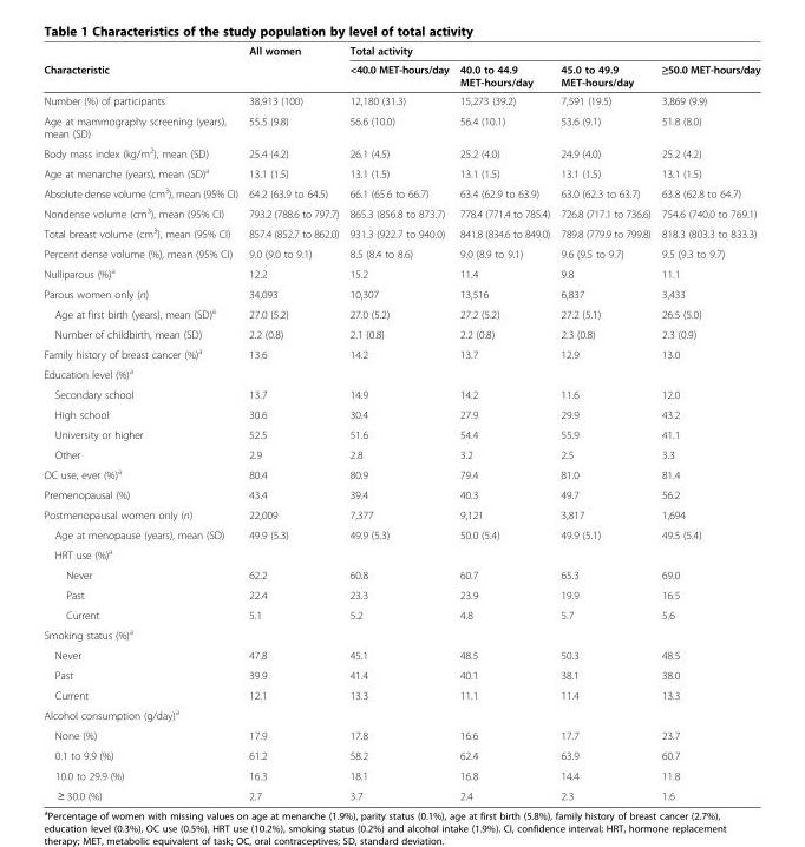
<table><thead><tr><td rowspan="2">Characteristic</td><td rowspan="2">All women</td><td colspan="4">Total activity</td></tr><tr><td>&lt;40.0 MET-hours/day</td><td>40.0 to 44.9 MET-hours/day</td><td>45.0 to 49.9 MET-hours/day</td><td>≥50.0 MET-hours/day</td></tr></thead><tbody><tr><td>Number (%) of participants</td><td>38,913 (100)</td><td>12,180 (31.3)</td><td>15,273 (39.2)</td><td>7,591 (19.5)</td><td>3,869 (9.9)</td></tr><tr><td>Age at mammography screening (years), mean (SD)</td><td>55.5 (9.8)</td><td>56.6 (10.0)</td><td>56.4 (10.1)</td><td>53.6 (9.1)</td><td>51.8 (8.0)</td></tr><tr><td>Body mass index (kg/m<sup>2</sup>), mean (SD)</td><td>25.4 (4.2)</td><td>26.1 (4.5)</td><td>25.2 (4.0)</td><td>24.9 (4.0)</td><td>25.2 (4.2)</td></tr><tr><td>Age at menarche (years), mean (SD)<sup>a</sup></td><td>13.1 (1.5)</td><td>13.1 (1.5)</td><td>13.1 (1.5)</td><td>13.1 (1.5)</td><td>13.1 (1.5)</td></tr><tr><td>Absolute dense volume (cm<sup>3</sup>), mean (95% CI)</td><td>64.2 (63.9 to 64.5)</td><td>66.1 (65.6 to 66.7)</td><td>63.4 (62.9 to 63.9)</td><td>63.0 (62.3 to 63.7)</td><td>63.8 (62.8 to 64.7)</td></tr><tr><td>Nondense volume (cm<sup>3</sup>), mean (95% CI)</td><td>793.2 (788.6 to 797.7)</td><td>865.3 (856.8 to 873.7)</td><td>778.4 (771.4 to 785.4)</td><td>726.8 (717.1 to 736.6)</td><td>754.6 (740.0 to 769.1)</td></tr><tr><td>Total breast volume (cm<sup>3</sup>), mean (95% CI)</td><td>857.4 (852.7 to 862.0)</td><td>931.3 (922.7 to 940.0)</td><td>841.8 (834.6 to 849.0)</td><td>789.8 (779.9 to 799.8)</td><td>818.3 (803.3 to 833.3)</td></tr><tr><td>Percent dense volume (%), mean (95% CI)</td><td>9.0 (9.0 to 9.1)</td><td>8.5 (8.4 to 8.6)</td><td>9.0 (8.9 to 9.1)</td><td>9.6 (9.5 to 9.7)</td><td>9.5 (9.3 to 9.7)</td></tr><tr><td>Nulliparous (%)<sup>a</sup></td><td>12.2</td><td>15.2</td><td>11.4</td><td>9.8</td><td>11.1</td></tr><tr><td>Parous women only (n)</td><td>34,093</td><td>10,307</td><td>13,516</td><td>6,837</td><td>3,433</td></tr><tr><td>Age at first birth (years), mean (SD)<sup>a</sup></td><td>27.0 (5.2)</td><td>27.0 (5.2)</td><td>27.2 (5.2)</td><td>27.2 (5.1)</td><td>26.5 (5.0)</td></tr><tr><td>Number of childbirth, mean (SD)</td><td>2.2 (0.8)</td><td>2.1 (0.8)</td><td>2.2 (0.8)</td><td>2.3 (0.8)</td><td>2.3 (0.9)</td></tr><tr><td>Family history of breast cancer (%)<sup>a</sup></td><td>13.6</td><td>14.2</td><td>13.7</td><td>12.9</td><td>13.0</td></tr><tr><td colspan="6">Education level (%)<sup>a</sup></td></tr><tr><td>Secondary school</td><td>13.7</td><td>14.9</td><td>14.2</td><td>11.6</td><td>12.0</td></tr><tr><td>High school</td><td>30.6</td><td>30.4</td><td>27.9</td><td>29.9</td><td>43.2</td></tr><tr><td>University or higher</td><td>52.5</td><td>51.6</td><td>54.4</td><td>55.9</td><td>41.1</td></tr><tr><td>Other</td><td>2.9</td><td>2.8</td><td>3.2</td><td>2.5</td><td>3.3</td></tr><tr><td>OC use, ever (%)<sup>a</sup></td><td>80.4</td><td>80.9</td><td>79.4</td><td>81.0</td><td>81.4</td></tr><tr><td>Premenopausal (%)</td><td>43.4</td><td>39.4</td><td>40.3</td><td>49.7</td><td>56.2</td></tr><tr><td>Postmenopausal women only (n)</td><td>22,009</td><td>7,377</td><td>9,121</td><td>3,817</td><td>1,694</td></tr><tr><td>Age at menopause (years), mean (SD)</td><td>49.9 (5.3)</td><td>49.9 (5.3)</td><td>50.0 (5.4)</td><td>49.9 (5.1)</td><td>49.5 (5.4)</td></tr><tr><td colspan="6">HRT use (%)<sup>a</sup></td></tr><tr><td>Never</td><td>62.2</td><td>60.8</td><td>60.7</td><td>65.3</td><td>69.0</td></tr><tr><td>Past</td><td>22.4</td><td>23.3</td><td>23.9</td><td>19.9</td><td>16.5</td></tr><tr><td>Current</td><td>5.1</td><td>5.2</td><td>4.8</td><td>5.7</td><td>5.6</td></tr><tr><td colspan="6">Smoking status (%)<sup>a</sup></td></tr><tr><td>Never</td><td>47.8</td><td>45.1</td><td>48.5</td><td>50.3</td><td>48.5</td></tr><tr><td>Past</td><td>39.9</td><td>41.4</td><td>40.1</td><td>38.1</td><td>38.0</td></tr><tr><td>Current</td><td>12.1</td><td>13.3</td><td>11.1</td><td>11.4</td><td>13.3</td></tr><tr><td colspan="6">Alcohol consumption (g/day)<sup>a</sup></td></tr><tr><td>None (%)</td><td>17.9</td><td>17.8</td><td>16.6</td><td>17.7</td><td>23.7</td></tr><tr><td>0.1 to 9.9 (%)</td><td>61.2</td><td>58.2</td><td>62.4</td><td>63.9</td><td>60.7</td></tr><tr><td>10.0 to 29.9 (%)</td><td>16.3</td><td>18.1</td><td>16.8</td><td>14.4</td><td>11.8</td></tr><tr><td>≥ 30.0 (%)</td><td>2.7</td><td>3.7</td><td>2.4</td><td>2.3</td><td>1.6</td></tr></tbody></table>